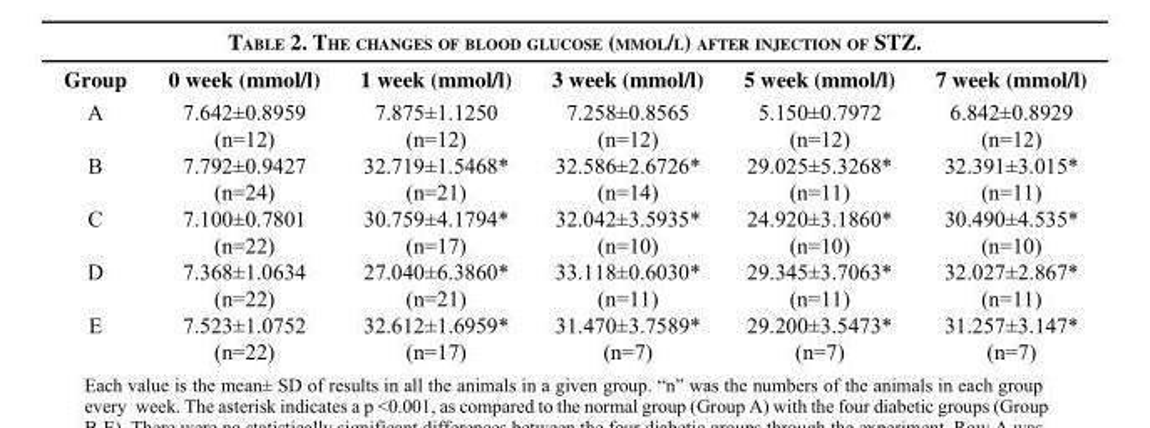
<table><thead><tr><td>Group</td><td>0 week (mmol/l)</td><td>1 week (mmol/l)</td><td>3 week (mmol/l)</td><td>5 week (mmol/l)</td><td>7 week (mmol/l)</td></tr></thead><tbody><tr><td>A</td><td>7.642±0.8959 (n=12)</td><td>7.875±1.1250 (n=12)</td><td>7.258±0.8565 (n=12)</td><td>5.150±0.7972 (n=12)</td><td>6.842±0.8929 (n=12)</td></tr><tr><td>B</td><td>7.792±0.9427 (n=24)</td><td>32.719±1.5468* (n=21)</td><td>32.586±2.6726* (n=14)</td><td>29.025±5.3268* (n=11)</td><td>32.391±3.015* (n=11)</td></tr><tr><td>C</td><td>7.100±0.7801 (n=22)</td><td>30.759±4.1794* (n=17)</td><td>32.042±3.5935* (n=10)</td><td>24.920±3.1860* (n=10)</td><td>30.490±4.535* (n=10)</td></tr><tr><td>D</td><td>7.368±1.0634 (n=22)</td><td>27.040±6.3860* (n=21)</td><td>33.118±0.6030* (n=11)</td><td>29.345±3.7063* (n=11)</td><td>32.027±2.867* (n=11)</td></tr><tr><td>E</td><td>7.523±1.0752 (n=22)</td><td>32.612±1.6959* (n=17)</td><td>31.470±3.7589* (n=7)</td><td>29.200±3.5473* (n=7)</td><td>31.257±3.147* (n=7)</td></tr></tbody></table>